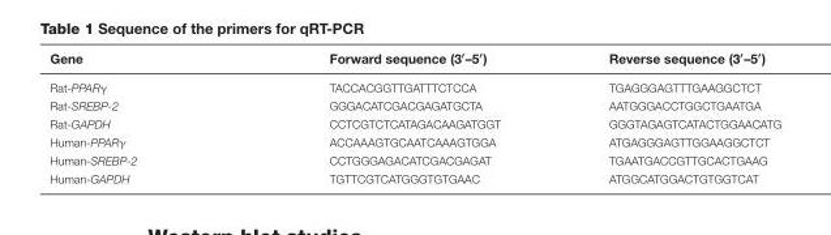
<table><thead><tr><td>Gene</td><td>Forward sequence (3′–5′)</td><td>Reverse sequence (3′–5′)</td></tr></thead><tbody><tr><td>Rat-PPARγ</td><td>TACCACGGTTGATTTCTCCA</td><td>TGAGGGAGTTTGAAGGCTCT</td></tr><tr><td>Rat-SREBP-2</td><td>GGGACATCGACGAGATGCTA</td><td>AATGGGACCTGGCTGAATGA</td></tr><tr><td>Rat-GAPDH</td><td>CCTCGTCTCATAGACAAGATGGT</td><td>GGGTAGAGTCATACTGGAACATG</td></tr><tr><td>Human-PPARγ</td><td>ACCAAAGTGCAATCAAAGTGGA</td><td>ATGAGGGAGTTGGAAGGCTCT</td></tr><tr><td>Human-SREBP-2</td><td>CCTGGGAGACATCGACGAGAT</td><td>TGAATGACCGTTGCACTGAAG</td></tr><tr><td>Human-GAPDH</td><td>TGTTCGTCATGGGTGTGAAC</td><td>ATGGCATGGACTGTGGTCAT</td></tr></tbody></table>